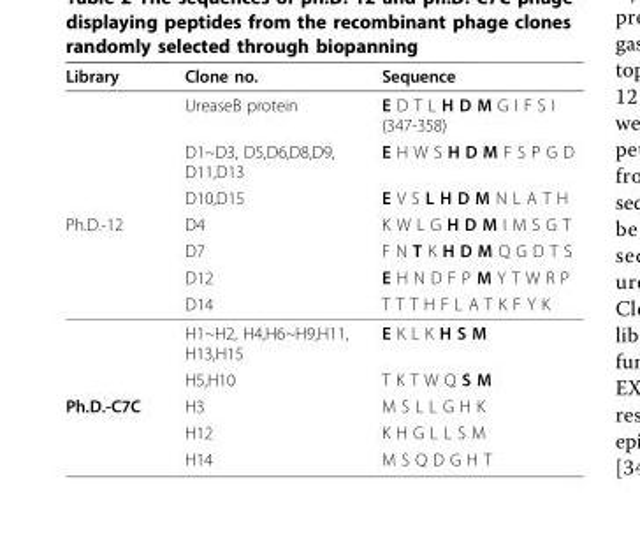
<table><thead><tr><td>Library</td><td>Clone no.</td><td>Sequence</td></tr></thead><tbody><tr><td></td><td>UreaseB protein</td><td>E D T L H D M G I F S I (347-358)</td></tr><tr><td></td><td>D1~D3, D5,D6,D8,D9, D11,D13</td><td>E H W S H D M F S P G D</td></tr><tr><td></td><td>D10,D15</td><td>E V S L H D M N L A T H</td></tr><tr><td rowspan="6">Ph.D.-12</td><td>D4</td><td>K W L G H D M I M S G T</td></tr><tr><td>D7</td><td>F N T K H D M Q G D T S</td></tr><tr><td>D12</td><td>E H N D F P M Y T W R P</td></tr><tr><td>D14</td><td>T T T H F L A T K F Y K</td></tr><tr><td>H1~H2, H4,H6~H9,H11, H13,H15</td><td>E K L K H S M</td></tr><tr><td>H5,H10</td><td>T K T W Q S M</td></tr><tr><td rowspan="3">Ph.D.-C7C</td><td>H3</td><td>M S L L G H K</td></tr><tr><td>H12</td><td>K H G L L S M</td></tr><tr><td>H14</td><td>M S Q D G H T</td></tr></tbody></table>